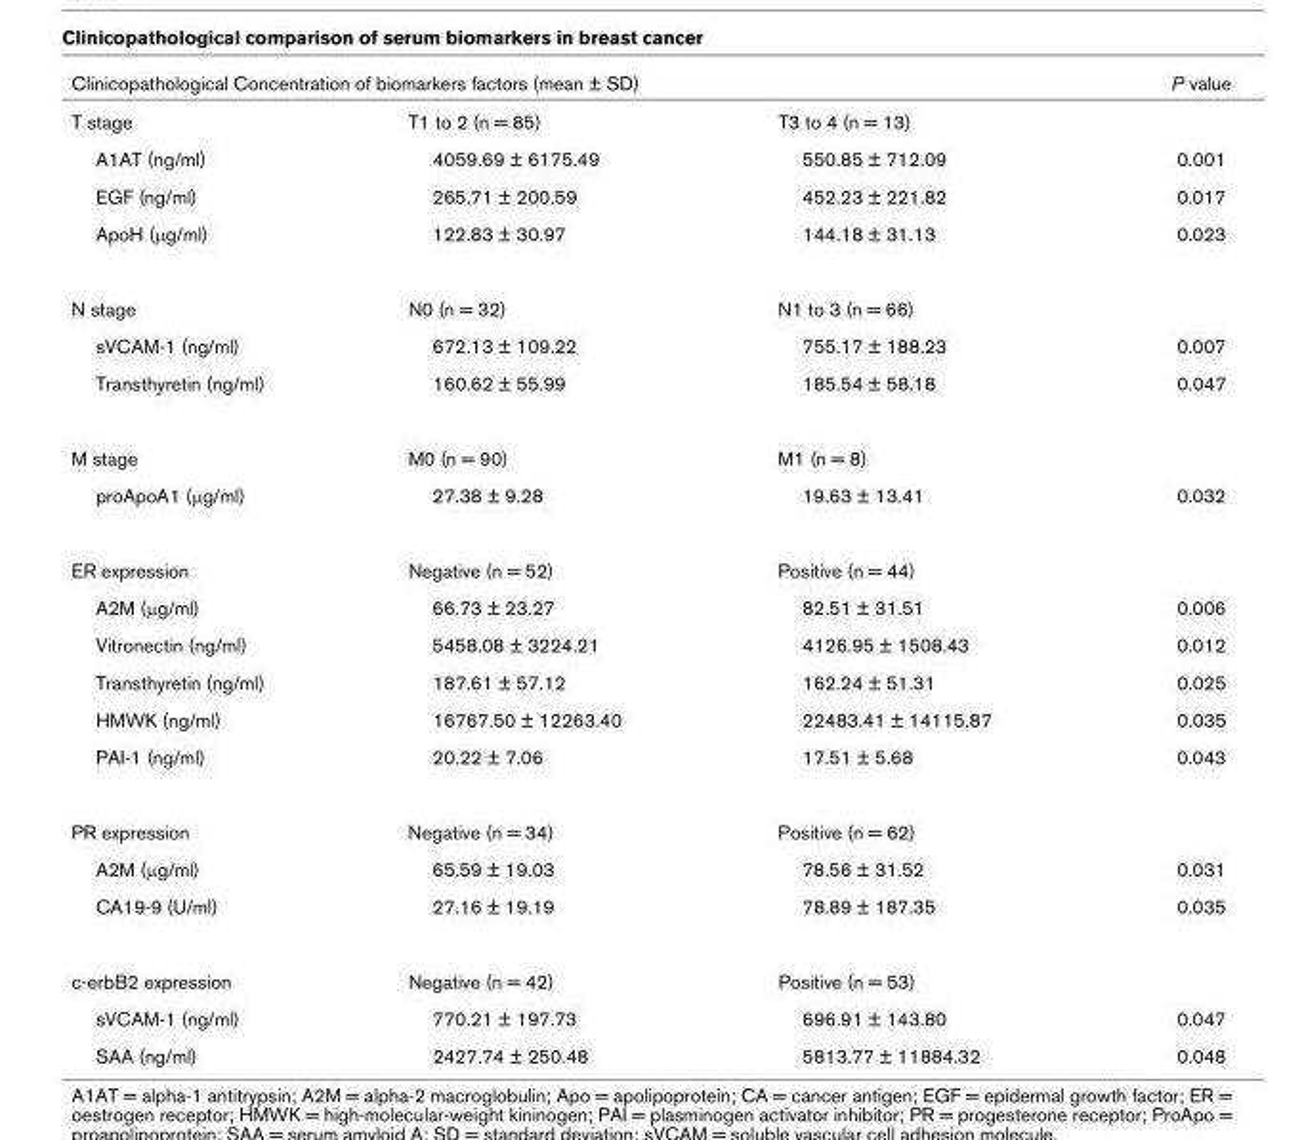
<table><thead><tr><td colspan="3">Clinicopathological Concentration of biomarkers factors (mean ± SD)</td><td rowspan="2">P value</td></tr><tr><td>T stage</td><td>T1 to 2 (n = 85)</td><td>T3 to 4 (n = 13)</td></tr></thead><tbody><tr><td>A1AT (ng/ml)</td><td>4059.69 ± 6175.49</td><td>550.85 ± 712.09</td><td>0.001</td></tr><tr><td>EGF (ng/ml)</td><td>265.71 ± 200.59</td><td>452.23 ± 221.82</td><td>0.017</td></tr><tr><td>ApoH (μg/ml)</td><td>122.83 ± 30.97</td><td>144.18 ± 31.13</td><td>0.023</td></tr><tr><td>N stage</td><td>N0 (n = 32)</td><td>N1 to 3 (n = 66)</td><td></td></tr><tr><td>sVCAM-1 (ng/ml)</td><td>672.13 ± 109.22</td><td>755.17 ± 188.23</td><td>0.007</td></tr><tr><td>Transthyretin (ng/ml)</td><td>160.62 ± 55.99</td><td>185.54 ± 58.18</td><td>0.047</td></tr><tr><td>M stage</td><td>M0 (n = 90)</td><td>M1 (n = 8)</td><td></td></tr><tr><td>proApoA1 (μg/ml)</td><td>27.38 ± 9.28</td><td>19.63 ± 13.41</td><td>0.032</td></tr><tr><td>ER expression</td><td>Negative (n = 52)</td><td>Positive (n = 44)</td><td></td></tr><tr><td>A2M (μg/ml)</td><td>66.73 ± 23.27</td><td>82.51 ± 31.51</td><td>0.006</td></tr><tr><td>Vitronectin (ng/ml)</td><td>5458.08 ± 3224.21</td><td>4126.95 ± 1508.43</td><td>0.012</td></tr><tr><td>Transthyretin (ng/ml)</td><td>187.61 ± 57.12</td><td>162.24 ± 51.31</td><td>0.025</td></tr><tr><td>HMWK (ng/ml)</td><td>16767.50 ± 12263.40</td><td>22483.41 ± 14115.87</td><td>0.035</td></tr><tr><td>PAI-1 (ng/ml)</td><td>20.22 ± 7.06</td><td>17.51 ± 5.68</td><td>0.043</td></tr><tr><td>PR expression</td><td>Negative (n = 34)</td><td>Positive (n = 62)</td><td></td></tr><tr><td>A2M (μg/ml)</td><td>65.59 ± 19.03</td><td>78.56 ± 31.52</td><td>0.031</td></tr><tr><td>CA19-9 (U/ml)</td><td>27.16 ± 19.19</td><td>78.89 ± 187.35</td><td>0.035</td></tr><tr><td>c-erbB2 expression</td><td>Negative (n = 42)</td><td>Positive (n = 53)</td><td></td></tr><tr><td>sVCAM-1 (ng/ml)</td><td>770.21 ± 197.73</td><td>696.91 ± 143.80</td><td>0.047</td></tr><tr><td>SAA (ng/ml)</td><td>2427.74 ± 250.48</td><td>5813.77 ± 11884.32</td><td>0.048</td></tr></tbody></table>